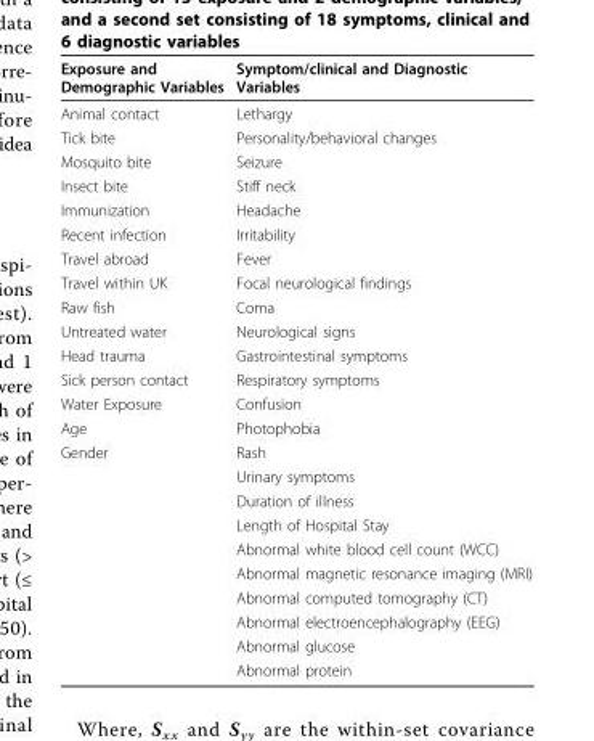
<table><thead><tr><td>Exposure and Demographic Variables</td><td>Symptom/clinical and Diagnostic Variables</td></tr></thead><tbody><tr><td>Animal contact</td><td>Lethargy</td></tr><tr><td>Tick bite</td><td>Personality/behavioral changes</td></tr><tr><td>Mosquito bite</td><td>Seizure</td></tr><tr><td>Insect bite</td><td>Stiff neck</td></tr><tr><td>Immunization</td><td>Headache</td></tr><tr><td>Recent infection</td><td>Irritability</td></tr><tr><td>Travel abroad</td><td>Fever</td></tr><tr><td>Travel within UK</td><td>Focal neurological findings</td></tr><tr><td>Raw fish</td><td>Coma</td></tr><tr><td>Untreated water</td><td>Neurological signs</td></tr><tr><td>Head trauma</td><td>Gastrointestinal symptoms</td></tr><tr><td>Sick person contact</td><td>Respiratory symptoms</td></tr><tr><td>Water Exposure</td><td>Confusion</td></tr><tr><td>Age</td><td>Photophobia</td></tr><tr><td rowspan="10">Gender</td><td>Rash</td></tr><tr><td>Urinary symptoms</td></tr><tr><td>Duration of illness</td></tr><tr><td>Length of Hospital Stay</td></tr><tr><td>Abnormal white blood cell count (WCC)</td></tr><tr><td>Abnormal magnetic resonance imaging (MRI)</td></tr><tr><td>Abnormal computed tomography (CT)</td></tr><tr><td>Abnormal electroencephalography (EEG)</td></tr><tr><td>Abnormal glucose</td></tr><tr><td>Abnormal protein</td></tr></tbody></table>